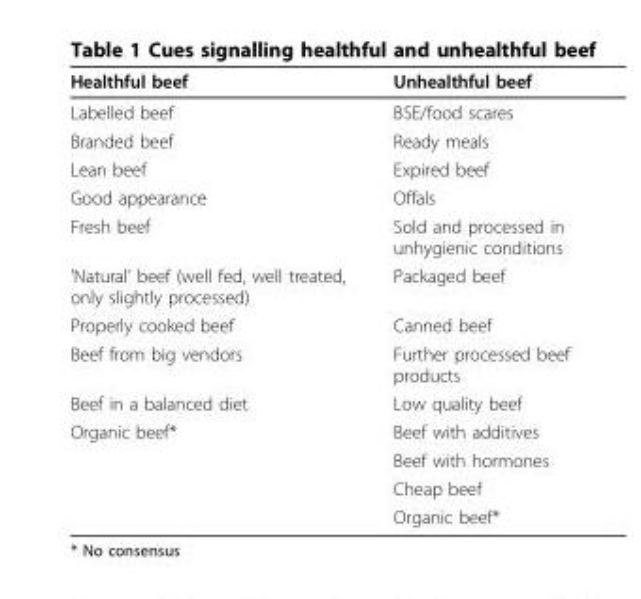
<table><thead><tr><td>Healthful beef</td><td>Unhealthful beef</td></tr></thead><tbody><tr><td>Labelled beef</td><td>BSE/food scares</td></tr><tr><td>Branded beef</td><td>Ready meals</td></tr><tr><td>Lean beef</td><td>Expired beef</td></tr><tr><td>Good appearance</td><td>Offals</td></tr><tr><td>Fresh beef</td><td>Sold and processed in unhygienic conditions</td></tr><tr><td>’Natural’ beef (well fed, well treated, only slightly processed)</td><td>Packaged beef</td></tr><tr><td>Properly cooked beef</td><td>Canned beef</td></tr><tr><td>Beef from big vendors</td><td>Further processed beef products</td></tr><tr><td>Beef in a balanced diet</td><td>Low quality beef</td></tr><tr><td rowspan="4">Organic beef*</td><td>Beef with additives</td></tr><tr><td>Beef with hormones</td></tr><tr><td>Cheap beef</td></tr><tr><td>Organic beef*</td></tr></tbody></table>